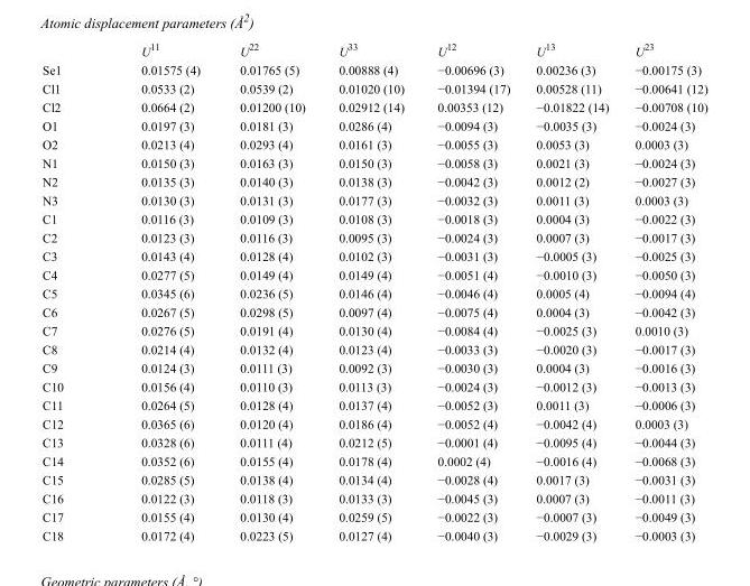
<table><thead><tr><td></td><td>U<sup>11</sup></td><td>U<sup>22</sup></td><td>U<sup>33</sup></td><td>U<sup>12</sup></td><td>U<sup>13</sup></td><td>U<sup>23</sup></td></tr></thead><tbody><tr><td>Se1</td><td>0.01575 (4)</td><td>0.01765 (5)</td><td>0.00888 (4)</td><td>−0.00696 (3)</td><td>0.00236 (3)</td><td>−0.00175 (3)</td></tr><tr><td>Cl1</td><td>0.0533 (2)</td><td>0.0539 (2)</td><td>0.01020 (10)</td><td>−0.01394 (17)</td><td>0.00528 (11)</td><td>−0.00641 (12)</td></tr><tr><td>Cl2</td><td>0.0664 (2)</td><td>0.01200 (10)</td><td>0.02912 (14)</td><td>0.00353 (12)</td><td>−0.01822 (14)</td><td>−0.00708 (10)</td></tr><tr><td>O1</td><td>0.0197 (3)</td><td>0.0181 (3)</td><td>0.0286 (4)</td><td>−0.0094 (3)</td><td>−0.0035 (3)</td><td>−0.0024 (3)</td></tr><tr><td>O2</td><td>0.0213 (4)</td><td>0.0293 (4)</td><td>0.0161 (3)</td><td>−0.0055 (3)</td><td>0.0053 (3)</td><td>0.0003 (3)</td></tr><tr><td>N1</td><td>0.0150 (3)</td><td>0.0163 (3)</td><td>0.0150 (3)</td><td>−0.0058 (3)</td><td>0.0021 (3)</td><td>−0.0024 (3)</td></tr><tr><td>N2</td><td>0.0135 (3)</td><td>0.0140 (3)</td><td>0.0138 (3)</td><td>−0.0042 (3)</td><td>0.0012 (2)</td><td>−0.0027 (3)</td></tr><tr><td>N3</td><td>0.0130 (3)</td><td>0.0131 (3)</td><td>0.0177 (3)</td><td>−0.0032 (3)</td><td>0.0011 (3)</td><td>0.0003 (3)</td></tr><tr><td>C1</td><td>0.0116 (3)</td><td>0.0109 (3)</td><td>0.0108 (3)</td><td>−0.0018 (3)</td><td>0.0004 (3)</td><td>−0.0022 (3)</td></tr><tr><td>C2</td><td>0.0123 (3)</td><td>0.0116 (3)</td><td>0.0095 (3)</td><td>−0.0024 (3)</td><td>0.0007 (3)</td><td>−0.0017 (3)</td></tr><tr><td>C3</td><td>0.0143 (4)</td><td>0.0128 (4)</td><td>0.0102 (3)</td><td>−0.0031 (3)</td><td>−0.0005 (3)</td><td>−0.0025 (3)</td></tr><tr><td>C4</td><td>0.0277 (5)</td><td>0.0149 (4)</td><td>0.0149 (4)</td><td>−0.0051 (4)</td><td>−0.0010 (3)</td><td>−0.0050 (3)</td></tr><tr><td>C5</td><td>0.0345 (6)</td><td>0.0236 (5)</td><td>0.0146 (4)</td><td>−0.0046 (4)</td><td>0.0005 (4)</td><td>−0.0094 (4)</td></tr><tr><td>C6</td><td>0.0267 (5)</td><td>0.0298 (5)</td><td>0.0097 (4)</td><td>−0.0075 (4)</td><td>0.0004 (3)</td><td>−0.0042 (3)</td></tr><tr><td>C7</td><td>0.0276 (5)</td><td>0.0191 (4)</td><td>0.0130 (4)</td><td>−0.0084 (4)</td><td>−0.0025 (3)</td><td>0.0010 (3)</td></tr><tr><td>C8</td><td>0.0214 (4)</td><td>0.0132 (4)</td><td>0.0123 (4)</td><td>−0.0033 (3)</td><td>−0.0020 (3)</td><td>−0.0017 (3)</td></tr><tr><td>C9</td><td>0.0124 (3)</td><td>0.0111 (3)</td><td>0.0092 (3)</td><td>−0.0030 (3)</td><td>0.0004 (3)</td><td>−0.0016 (3)</td></tr><tr><td>C10</td><td>0.0156 (4)</td><td>0.0110 (3)</td><td>0.0113 (3)</td><td>−0.0024 (3)</td><td>−0.0012 (3)</td><td>−0.0013 (3)</td></tr><tr><td>C11</td><td>0.0264 (5)</td><td>0.0128 (4)</td><td>0.0137 (4)</td><td>−0.0052 (3)</td><td>0.0011 (3)</td><td>−0.0006 (3)</td></tr><tr><td>C12</td><td>0.0365 (6)</td><td>0.0120 (4)</td><td>0.0186 (4)</td><td>−0.0052 (4)</td><td>−0.0042 (4)</td><td>0.0003 (3)</td></tr><tr><td>C13</td><td>0.0328 (6)</td><td>0.0111 (4)</td><td>0.0212 (5)</td><td>−0.0001 (4)</td><td>−0.0095 (4)</td><td>−0.0044 (3)</td></tr><tr><td>C14</td><td>0.0352 (6)</td><td>0.0155 (4)</td><td>0.0178 (4)</td><td>0.0002 (4)</td><td>−0.0016 (4)</td><td>−0.0068 (3)</td></tr><tr><td>C15</td><td>0.0285 (5)</td><td>0.0138 (4)</td><td>0.0134 (4)</td><td>−0.0028 (4)</td><td>0.0017 (3)</td><td>−0.0031 (3)</td></tr><tr><td>C16</td><td>0.0122 (3)</td><td>0.0118 (3)</td><td>0.0133 (3)</td><td>−0.0045 (3)</td><td>0.0007 (3)</td><td>−0.0011 (3)</td></tr><tr><td>C17</td><td>0.0155 (4)</td><td>0.0130 (4)</td><td>0.0259 (5)</td><td>−0.0022 (3)</td><td>−0.0007 (3)</td><td>−0.0049 (3)</td></tr><tr><td>C18</td><td>0.0172 (4)</td><td>0.0223 (5)</td><td>0.0127 (4)</td><td>−0.0040 (3)</td><td>−0.0029 (3)</td><td>−0.0003 (3)</td></tr></tbody></table>